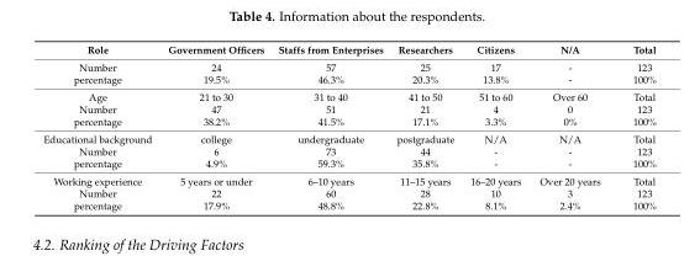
<table><thead><tr><td>Role</td><td>Government Officers</td><td>Staffs from Enterprises</td><td>Researchers</td><td>Citizens</td><td>N/A</td><td>Total</td></tr></thead><tbody><tr><td>Number</td><td>24</td><td>57</td><td>25</td><td>17</td><td>-</td><td>123</td></tr><tr><td>percentage</td><td>19.5%</td><td>46.3%</td><td>20.3%</td><td>13.8%</td><td>-</td><td>100%</td></tr><tr><td>Age</td><td>21 to 30</td><td>31 to 40</td><td>41 to 50</td><td>51 to 60</td><td>Over 60</td><td>Total</td></tr><tr><td>Number</td><td>47</td><td>51</td><td>21</td><td>4</td><td>0</td><td>123</td></tr><tr><td>percentage</td><td>38.2%</td><td>41.5%</td><td>17.1%</td><td>3.3%</td><td>0%</td><td>100%</td></tr><tr><td>Educational background</td><td>college</td><td>undergraduate</td><td>postgraduate</td><td>N/A</td><td>N/A</td><td>Total</td></tr><tr><td>Number</td><td>6</td><td>73</td><td>44</td><td>-</td><td>-</td><td>123</td></tr><tr><td>percentage</td><td>4.9%</td><td>59.3%</td><td>35.8%</td><td>-</td><td>-</td><td>100%</td></tr><tr><td>Working experience</td><td>5 years or under</td><td>6–10 years</td><td>11–15 years</td><td>16–20 years</td><td>Over 20 years</td><td>Total</td></tr><tr><td>Number</td><td>22</td><td>60</td><td>28</td><td>10</td><td>3</td><td>123</td></tr><tr><td>percentage</td><td>17.9%</td><td>48.8%</td><td>22.8%</td><td>8.1%</td><td>2.4%</td><td>100%</td></tr></tbody></table>